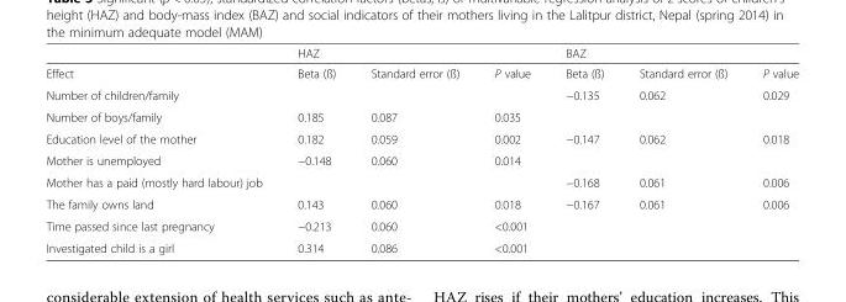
<table><thead><tr><td rowspan="2">Effect</td><td colspan="3">HAZ</td><td colspan="3">BAZ</td></tr><tr><td>Beta (ß)</td><td>Standard error (ß)</td><td>P value</td><td>Beta (ß)</td><td>Standard error (ß)</td><td>P value</td></tr></thead><tbody><tr><td>Number of children/family</td><td></td><td></td><td></td><td>−0.135</td><td>0.062</td><td>0.029</td></tr><tr><td>Number of boys/family</td><td>0.185</td><td>0.087</td><td>0.035</td><td></td><td></td><td></td></tr><tr><td>Education level of the mother</td><td>0.182</td><td>0.059</td><td>0.002</td><td>−0.147</td><td>0.062</td><td>0.018</td></tr><tr><td>Mother is unemployed</td><td>−0.148</td><td>0.060</td><td>0.014</td><td></td><td></td><td></td></tr><tr><td>Mother has a paid (mostly hard labour) job</td><td></td><td></td><td></td><td>−0.168</td><td>0.061</td><td>0.006</td></tr><tr><td>The family owns land</td><td>0.143</td><td>0.060</td><td>0.018</td><td>−0.167</td><td>0.061</td><td>0.006</td></tr><tr><td>Time passed since last pregnancy</td><td>−0.213</td><td>0.060</td><td>&lt;0.001</td><td></td><td></td><td></td></tr><tr><td>Investigated child is a girl</td><td>0.314</td><td>0.086</td><td>&lt;0.001</td><td></td><td></td><td></td></tr></tbody></table>